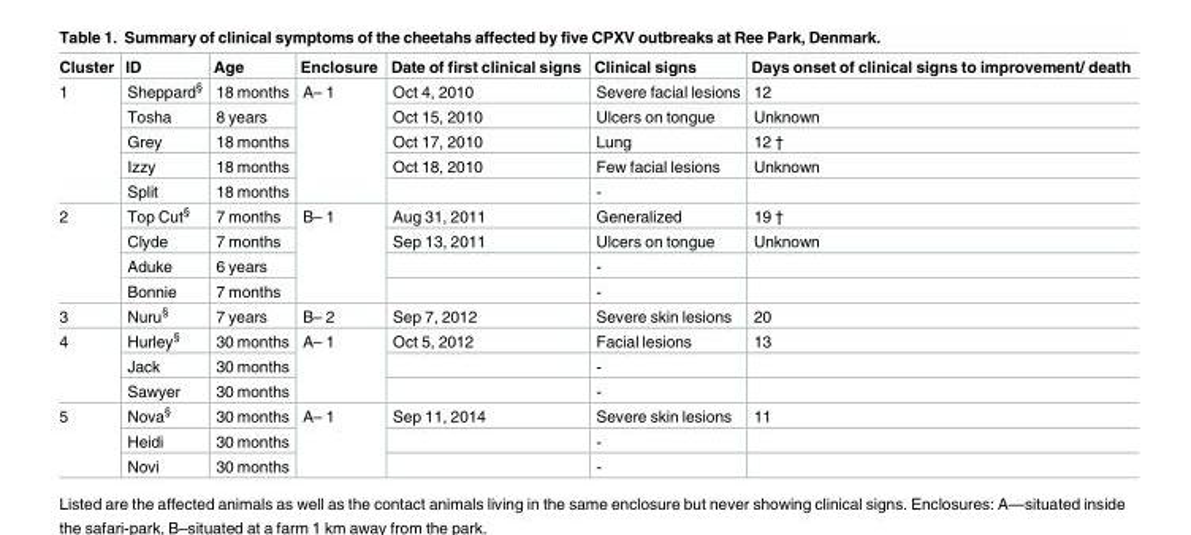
<table><thead><tr><td>Cluster</td><td>ID</td><td>Age</td><td>Enclosure</td><td>Date of first clinical signs</td><td>Clinical signs</td><td>Days onset of clinical signs to improvement/ death</td></tr></thead><tbody><tr><td rowspan="5">1</td><td>Sheppard<sup>§</sup></td><td>18 months</td><td rowspan="5">A– 1</td><td>Oct 4, 2010</td><td>Severe facial lesions</td><td>12</td></tr><tr><td>Tosha</td><td>8 years</td><td>Oct 15, 2010</td><td>Ulcers on tongue</td><td>Unknown</td></tr><tr><td>Grey</td><td>18 months</td><td>Oct 17, 2010</td><td>Lung</td><td>12 †</td></tr><tr><td>Izzy</td><td>18 months</td><td>Oct 18, 2010</td><td>Few facial lesions</td><td>Unknown</td></tr><tr><td>Split</td><td>18 months</td><td></td><td>-</td><td></td></tr><tr><td rowspan="4">2</td><td>Top Cut<sup>§</sup></td><td>7 months</td><td rowspan="4">B– 1</td><td>Aug 31, 2011</td><td>Generalized</td><td>19 †</td></tr><tr><td>Clyde</td><td>7 months</td><td>Sep 13, 2011</td><td>Ulcers on tongue</td><td>Unknown</td></tr><tr><td>Aduke</td><td>6 years</td><td></td><td>-</td><td></td></tr><tr><td>Bonnie</td><td>7 months</td><td></td><td>-</td><td></td></tr><tr><td>3</td><td>Nuru<sup>§</sup></td><td>7 years</td><td>B– 2</td><td>Sep 7, 2012</td><td>Severe skin lesions</td><td>20</td></tr><tr><td rowspan="3">4</td><td>Hurley<sup>§</sup></td><td>30 months</td><td rowspan="3">A– 1</td><td>Oct 5, 2012</td><td>Facial lesions</td><td>13</td></tr><tr><td>Jack</td><td>30 months</td><td></td><td>-</td><td></td></tr><tr><td>Sawyer</td><td>30 months</td><td></td><td>-</td><td></td></tr><tr><td rowspan="3">5</td><td>Nova<sup>§</sup></td><td>30 months</td><td rowspan="3">A– 1</td><td>Sep 11, 2014</td><td>Severe skin lesions</td><td>11</td></tr><tr><td>Heidi</td><td>30 months</td><td></td><td>-</td><td></td></tr><tr><td>Novi</td><td>30 months</td><td></td><td>-</td><td></td></tr></tbody></table>